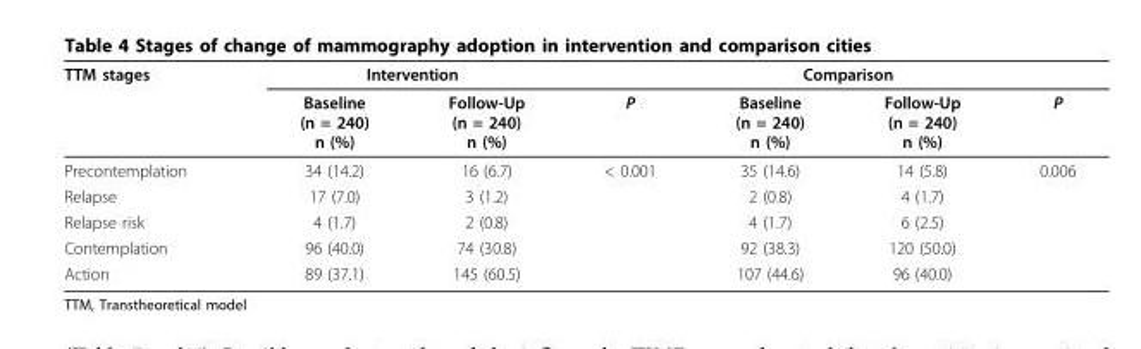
<table><thead><tr><td rowspan="2">TTM stages</td><td colspan="2">Intervention</td><td rowspan="2">P</td><td colspan="2">Comparison</td><td rowspan="2">P</td></tr><tr><td>Baseline (n = 240) n (%)</td><td>Follow-Up (n = 240) n (%)</td><td>Baseline (n = 240) n (%)</td><td>Follow-Up (n = 240) n (%)</td></tr></thead><tbody><tr><td>Precontemplation</td><td>34 (14.2)</td><td>16 (6.7)</td><td>&lt; 0.001</td><td>35 (14.6)</td><td>14 (5.8)</td><td>0.006</td></tr><tr><td>Relapse</td><td>17 (7.0)</td><td>3 (1.2)</td><td></td><td>2 (0.8)</td><td>4 (1.7)</td><td></td></tr><tr><td>Relapse risk</td><td>4 (1.7)</td><td>2 (0.8)</td><td></td><td>4 (1.7)</td><td>6 (2.5)</td><td></td></tr><tr><td>Contemplation</td><td>96 (40.0)</td><td>74 (30.8)</td><td></td><td>92 (38.3)</td><td>120 (50.0)</td><td></td></tr><tr><td>Action</td><td>89 (37.1)</td><td>145 (60.5)</td><td></td><td>107 (44.6)</td><td>96 (40.0)</td><td></td></tr></tbody></table>